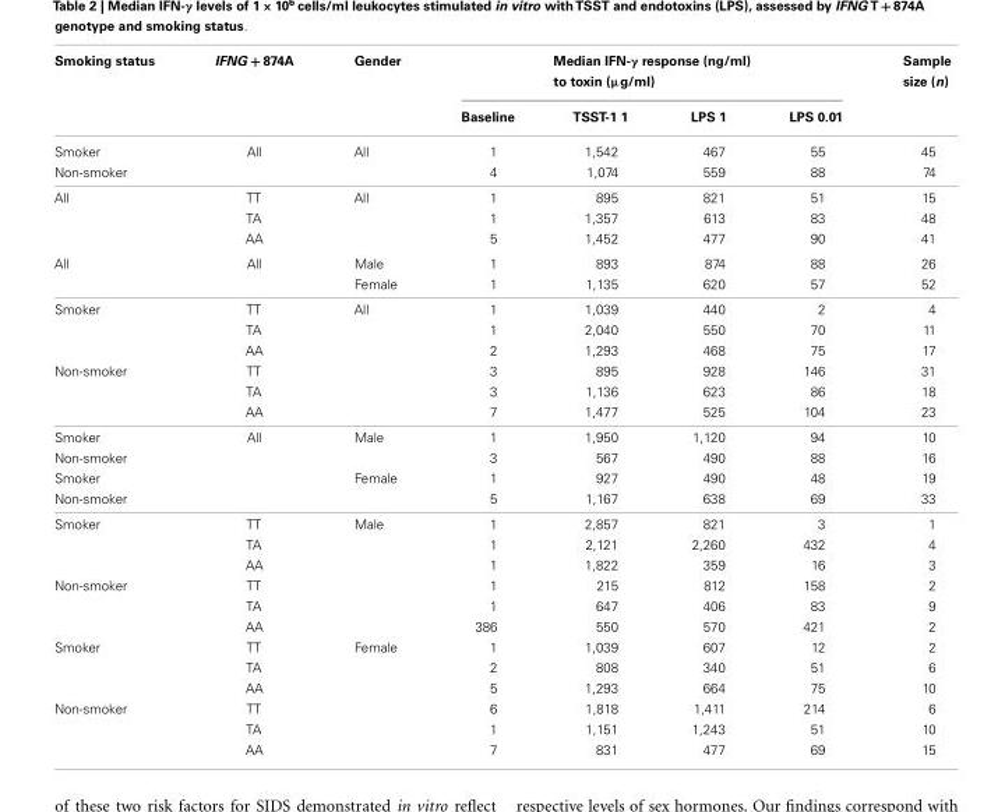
<table><thead><tr><td rowspan="2">Smoking status</td><td rowspan="2">IFNG + 874A</td><td rowspan="2">Gender</td><td colspan="4">Median IFN-γ response (ng/ml) to toxin (µg/ml)</td><td rowspan="2">Sample size (n)</td></tr><tr><td>Baseline</td><td>TSST-1 1</td><td>LPS 1</td><td>LPS 0.01</td></tr></thead><tbody><tr><td>Smoker</td><td>All</td><td>All</td><td>1</td><td>1,542</td><td>467</td><td>55</td><td>45</td></tr><tr><td>Non-smoker</td><td></td><td></td><td>4</td><td>1,074</td><td>559</td><td>88</td><td>74</td></tr><tr><td rowspan="3">All</td><td>TT</td><td>All</td><td>1</td><td>895</td><td>821</td><td>51</td><td>15</td></tr><tr><td>TA</td><td></td><td>1</td><td>1,357</td><td>613</td><td>83</td><td>48</td></tr><tr><td>AA</td><td></td><td>5</td><td>1,452</td><td>477</td><td>90</td><td>41</td></tr><tr><td rowspan="2">All</td><td>All</td><td>Male</td><td>1</td><td>893</td><td>874</td><td>88</td><td>26</td></tr><tr><td></td><td>Female</td><td>1</td><td>1,135</td><td>620</td><td>57</td><td>52</td></tr><tr><td rowspan="3">Smoker</td><td>TT</td><td>All</td><td>1</td><td>1,039</td><td>440</td><td>2</td><td>4</td></tr><tr><td>TA</td><td></td><td>1</td><td>2,040</td><td>550</td><td>70</td><td>11</td></tr><tr><td>AA</td><td></td><td>2</td><td>1,293</td><td>468</td><td>75</td><td>17</td></tr><tr><td rowspan="3">Non-smoker</td><td>TT</td><td></td><td>3</td><td>895</td><td>928</td><td>146</td><td>31</td></tr><tr><td>TA</td><td></td><td>3</td><td>1,136</td><td>623</td><td>86</td><td>18</td></tr><tr><td>AA</td><td></td><td>7</td><td>1,477</td><td>525</td><td>104</td><td>23</td></tr><tr><td>Smoker</td><td>All</td><td>Male</td><td>1</td><td>1,950</td><td>1,120</td><td>94</td><td>10</td></tr><tr><td>Non-smoker</td><td></td><td></td><td>3</td><td>567</td><td>490</td><td>88</td><td>16</td></tr><tr><td>Smoker</td><td></td><td>Female</td><td>1</td><td>927</td><td>490</td><td>48</td><td>19</td></tr><tr><td>Non-smoker</td><td></td><td></td><td>5</td><td>1,167</td><td>638</td><td>69</td><td>33</td></tr><tr><td rowspan="3">Smoker</td><td>TT</td><td>Male</td><td>1</td><td>2,857</td><td>821</td><td>3</td><td>1</td></tr><tr><td>TA</td><td></td><td>1</td><td>2,121</td><td>2,260</td><td>432</td><td>4</td></tr><tr><td>AA</td><td></td><td>1</td><td>1,822</td><td>359</td><td>16</td><td>3</td></tr><tr><td rowspan="3">Non-smoker</td><td>TT</td><td></td><td>1</td><td>215</td><td>812</td><td>158</td><td>2</td></tr><tr><td>TA</td><td></td><td>1</td><td>647</td><td>406</td><td>83</td><td>9</td></tr><tr><td>AA</td><td></td><td>386</td><td>550</td><td>570</td><td>421</td><td>2</td></tr><tr><td rowspan="3">Smoker</td><td>TT</td><td>Female</td><td>1</td><td>1,039</td><td>607</td><td>12</td><td>2</td></tr><tr><td>TA</td><td></td><td>2</td><td>808</td><td>340</td><td>51</td><td>6</td></tr><tr><td>AA</td><td></td><td>5</td><td>1,293</td><td>664</td><td>75</td><td>10</td></tr><tr><td rowspan="3">Non-smoker</td><td>TT</td><td></td><td>6</td><td>1,818</td><td>1,411</td><td>214</td><td>6</td></tr><tr><td>TA</td><td></td><td>1</td><td>1,151</td><td>1,243</td><td>51</td><td>10</td></tr><tr><td>AA</td><td></td><td>7</td><td>831</td><td>477</td><td>69</td><td>15</td></tr></tbody></table>